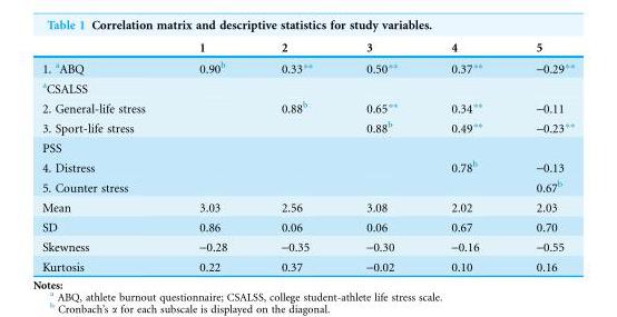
<table><thead><tr><td></td><td>1</td><td>2</td><td>3</td><td>4</td><td>5</td></tr></thead><tbody><tr><td>1. <sup>a</sup>ABQ</td><td>0.90<sup>b</sup></td><td>0.33**</td><td>0.50**</td><td>0.37**</td><td>-0.29**</td></tr><tr><td colspan="6"><sup>a</sup>CSALSS</td></tr><tr><td>2. General-life stress</td><td></td><td>0.88<sup>b</sup></td><td>0.65**</td><td>0.34**</td><td>-0.11</td></tr><tr><td>3. Sport-life stress</td><td></td><td></td><td>0.88<sup>b</sup></td><td>0.49**</td><td>-0.23**</td></tr><tr><td colspan="6">PSS</td></tr><tr><td>4. Distress</td><td></td><td></td><td></td><td>0.78<sup>b</sup></td><td>-0.13</td></tr><tr><td>5. Counter stress</td><td></td><td></td><td></td><td></td><td>0.67<sup>b</sup></td></tr><tr><td>Mean</td><td>3.03</td><td>2.56</td><td>3.08</td><td>2.02</td><td>2.03</td></tr><tr><td>SD</td><td>0.86</td><td>0.06</td><td>0.06</td><td>0.67</td><td>0.70</td></tr><tr><td>Skewness</td><td>-0.28</td><td>-0.35</td><td>-0.30</td><td>-0.16</td><td>-0.55</td></tr><tr><td>Kurtosis</td><td>0.22</td><td>0.37</td><td>-0.02</td><td>0.10</td><td>0.16</td></tr></tbody></table>